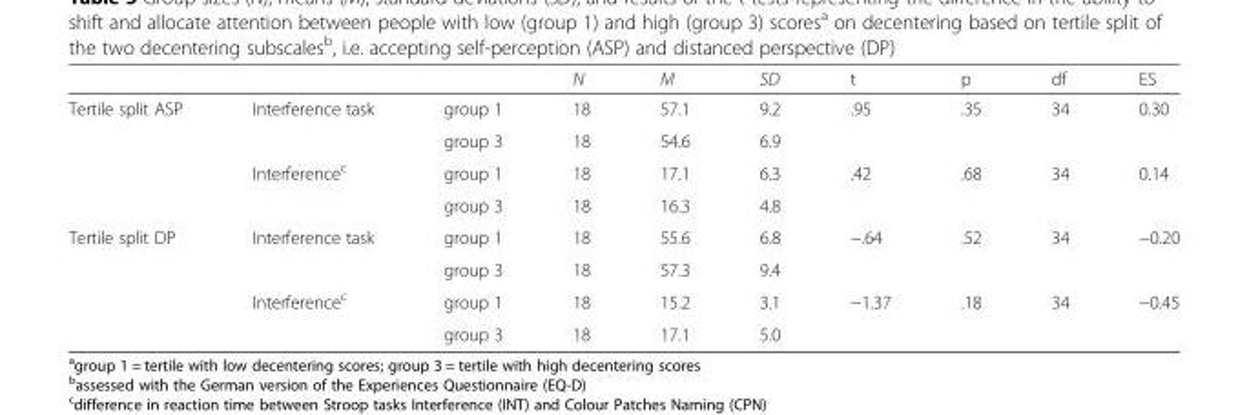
<table><thead><tr><td></td><td></td><td></td><td>N</td><td>M</td><td>SD</td><td>t</td><td>p</td><td>df</td><td>ES</td></tr></thead><tbody><tr><td rowspan="4">Tertile split ASP</td><td rowspan="2">Interference task</td><td>group 1</td><td>18</td><td>57.1</td><td>9.2</td><td rowspan="2">.95</td><td rowspan="2">.35</td><td rowspan="2">34</td><td rowspan="2">0.30</td></tr><tr><td>group 3</td><td>18</td><td>54.6</td><td>6.9</td></tr><tr><td rowspan="2">Interference<sup>c</sup></td><td>group 1</td><td>18</td><td>17.1</td><td>6.3</td><td rowspan="2">.42</td><td rowspan="2">.68</td><td rowspan="2">34</td><td rowspan="2">0.14</td></tr><tr><td>group 3</td><td>18</td><td>16.3</td><td>4.8</td></tr><tr><td rowspan="4">Tertile split DP</td><td rowspan="2">Interference task</td><td>group 1</td><td>18</td><td>55.6</td><td>6.8</td><td rowspan="2">−.64</td><td rowspan="2">.52</td><td rowspan="2">34</td><td rowspan="2">−0.20</td></tr><tr><td>group 3</td><td>18</td><td>57.3</td><td>9.4</td></tr><tr><td rowspan="2">Interference<sup>c</sup></td><td>group 1</td><td>18</td><td>15.2</td><td>3.1</td><td rowspan="2">−1.37</td><td rowspan="2">.18</td><td rowspan="2">34</td><td rowspan="2">−0.45</td></tr><tr><td>group 3</td><td>18</td><td>17.1</td><td>5.0</td></tr></tbody></table>